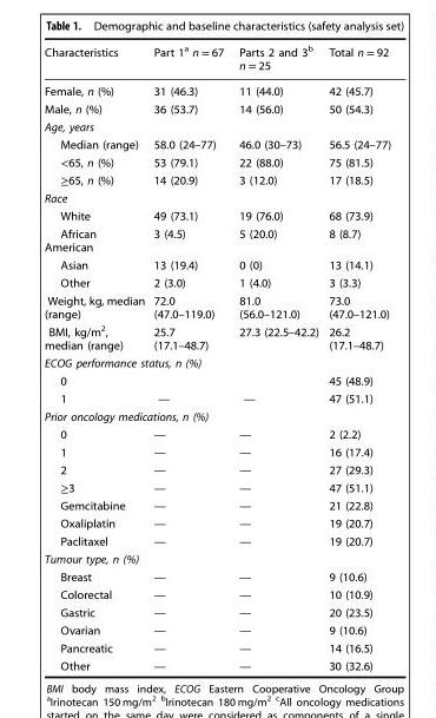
<table><thead><tr><td>Characteristics</td><td>Part 1<sup>a</sup> n = 67</td><td>Parts 2 and 3<sup>b</sup> n = 25</td><td>Total n = 92</td></tr></thead><tbody><tr><td>Female, n (%)</td><td>31 (46.3)</td><td>11 (44.0)</td><td>42 (45.7)</td></tr><tr><td>Male, n (%)</td><td>36 (53.7)</td><td>14 (56.0)</td><td>50 (54.3)</td></tr><tr><td colspan="4">Age, years</td></tr><tr><td>Median (range)</td><td>58.0 (24–77)</td><td>46.0 (30–73)</td><td>56.5 (24–77)</td></tr><tr><td>&lt;65, n (%)</td><td>53 (79.1)</td><td>22 (88.0)</td><td>75 (81.5)</td></tr><tr><td>≥65, n (%)</td><td>14 (20.9)</td><td>3 (12.0)</td><td>17 (18.5)</td></tr><tr><td colspan="4">Race</td></tr><tr><td>White</td><td>49 (73.1)</td><td>19 (76.0)</td><td>68 (73.9)</td></tr><tr><td>African American</td><td>3 (4.5)</td><td>5 (20.0)</td><td>8 (8.7)</td></tr><tr><td>Asian</td><td>13 (19.4)</td><td>0 (0)</td><td>13 (14.1)</td></tr><tr><td>Other</td><td>2 (3.0)</td><td>1 (4.0)</td><td>3 (3.3)</td></tr><tr><td>Weight, kg, median (range)</td><td>72.0 (47.0–119.0)</td><td>81.0 (56.0–121.0)</td><td>73.0 (47.0–121.0)</td></tr><tr><td>BMI, kg/m<sup>2</sup>, median (range)</td><td>25.7 (17.1–48.7)</td><td>27.3 (22.5–42.2)</td><td>26.2 (17.1–48.7)</td></tr><tr><td colspan="4">ECOG performance status, n (%)</td></tr><tr><td>0</td><td></td><td></td><td>45 (48.9)</td></tr><tr><td>1</td><td>—</td><td>—</td><td>47 (51.1)</td></tr><tr><td colspan="4">Prior oncology medications, n (%)</td></tr><tr><td>0</td><td>—</td><td>—</td><td>2 (2.2)</td></tr><tr><td>1</td><td>—</td><td>—</td><td>16 (17.4)</td></tr><tr><td>2</td><td>—</td><td>—</td><td>27 (29.3)</td></tr><tr><td>≥3</td><td>—</td><td>—</td><td>47 (51.1)</td></tr><tr><td>Gemcitabine</td><td>—</td><td>—</td><td>21 (22.8)</td></tr><tr><td>Oxaliplatin</td><td>—</td><td>—</td><td>19 (20.7)</td></tr><tr><td>Paclitaxel</td><td>—</td><td>—</td><td>19 (20.7)</td></tr><tr><td colspan="4">Tumour type, n (%)</td></tr><tr><td>Breast</td><td>—</td><td>—</td><td>9 (10.6)</td></tr><tr><td>Colorectal</td><td>—</td><td>—</td><td>10 (10.9)</td></tr><tr><td>Gastric</td><td>—</td><td>—</td><td>20 (23.5)</td></tr><tr><td>Ovarian</td><td>—</td><td>—</td><td>9 (10.6)</td></tr><tr><td>Pancreatic</td><td>—</td><td>—</td><td>14 (16.5)</td></tr><tr><td>Other</td><td>—</td><td>—</td><td>30 (32.6)</td></tr></tbody></table>